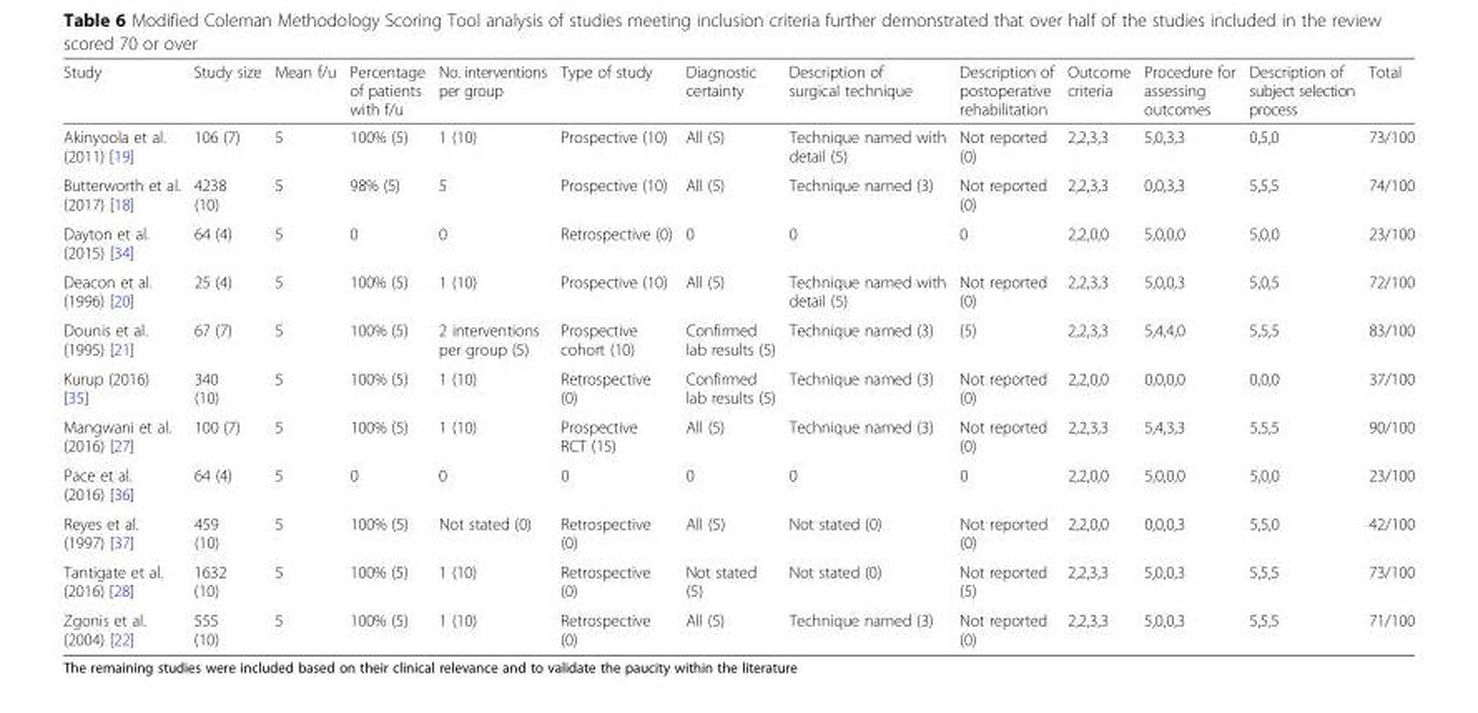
<table><thead><tr><td>Study</td><td>Study size</td><td>Mean f/u</td><td>Percentage of patients with f/u</td><td>No. interventions per group</td><td>Type of study</td><td>Diagnostic certainty</td><td>Description of surgical technique</td><td>Description of postoperative rehabilitation</td><td>Outcome criteria</td><td>Procedure for assessing outcomes</td><td>Description of subject selection process</td><td>Total</td></tr></thead><tbody><tr><td>Akinyoola et al. (2011) [19]</td><td>106 (7)</td><td>5</td><td>100% (5)</td><td>1 (10)</td><td>Prospective (10)</td><td>All (5)</td><td>Technique named with detail (5)</td><td>Not reported (0)</td><td>2,2,3,3</td><td>5,0,3,3</td><td>0,5,0</td><td>73/100</td></tr><tr><td>Butterworth et al. (2017) [18]</td><td>4238 (10)</td><td>5</td><td>98% (5)</td><td>5</td><td>Prospective (10)</td><td>All (5)</td><td>Technique named (3)</td><td>Not reported (0)</td><td>2,2,3,3</td><td>0,0,3,3</td><td>5,5,5</td><td>74/100</td></tr><tr><td>Dayton et al. (2015) [34]</td><td>64 (4)</td><td>5</td><td>0</td><td>0</td><td>Retrospective (0)</td><td>0</td><td>0</td><td>0</td><td>2,2,0,0</td><td>5,0,0,0</td><td>5,0,0</td><td>23/100</td></tr><tr><td>Deacon et al. (1996) [20]</td><td>25 (4)</td><td>5</td><td>100% (5)</td><td>1 (10)</td><td>Prospective (10)</td><td>All (5)</td><td>Technique named with detail (5)</td><td>Not reported (0)</td><td>2,2,3,3</td><td>5,0,0,3</td><td>5,0,5</td><td>72/100</td></tr><tr><td>Dounis et al. (1995) [21]</td><td>67 (7)</td><td>5</td><td>100% (5)</td><td>2 interventions per group (5)</td><td>Prospective cohort (10)</td><td>Confirmed lab results (5)</td><td>Technique named (3)</td><td>(5)</td><td>2,2,3,3</td><td>5,4,4,0</td><td>5,5,5</td><td>83/100</td></tr><tr><td>Kurup (2016) [35]</td><td>340 (10)</td><td>5</td><td>100% (5)</td><td>1 (10)</td><td>Retrospective (0)</td><td>Confirmed lab results (5)</td><td>Technique named (3)</td><td>Not reported (0)</td><td>2,2,0,0</td><td>0,0,0,0</td><td>0,0,0</td><td>37/100</td></tr><tr><td>Mangwani et al. (2016) [27]</td><td>100 (7)</td><td>5</td><td>100% (5)</td><td>1 (10)</td><td>Prospective RCT (15)</td><td>All (5)</td><td>Technique named (3)</td><td>Not reported (0)</td><td>2,2,3,3</td><td>5,4,3,3</td><td>5,5,5</td><td>90/100</td></tr><tr><td>Pace et al. (2016) [36]</td><td>64 (4)</td><td>5</td><td>0</td><td>0</td><td>0</td><td>0</td><td>0</td><td>0</td><td>2,2,0,0</td><td>5,0,0,0</td><td>5,0,0</td><td>23/100</td></tr><tr><td>Reyes et al. (1997) [37]</td><td>459 (10)</td><td>5</td><td>100% (5)</td><td>Not stated (0)</td><td>Retrospective (0)</td><td>All (5)</td><td>Not stated (0)</td><td>Not reported (0)</td><td>2,2,0,0</td><td>0,0,0,3</td><td>5,5,0</td><td>42/100</td></tr><tr><td>Tantigate et al. (2016) [28]</td><td>1632 (10)</td><td>5</td><td>100% (5)</td><td>1 (10)</td><td>Retrospective (0)</td><td>Not stated (5)</td><td>Not stated (0)</td><td>Not reported (5)</td><td>2,2,3,3</td><td>5,0,0,3</td><td>5,5,5</td><td>73/100</td></tr><tr><td>Zgonis et al. (2004) [22]</td><td>555 (10)</td><td>5</td><td>100% (5)</td><td>1 (10)</td><td>Retrospective (0)</td><td>All (5)</td><td>Technique named (3)</td><td>Not reported (0)</td><td>2,2,3,3</td><td>5,0,0,3</td><td>5,5,5</td><td>71/100</td></tr></tbody></table>